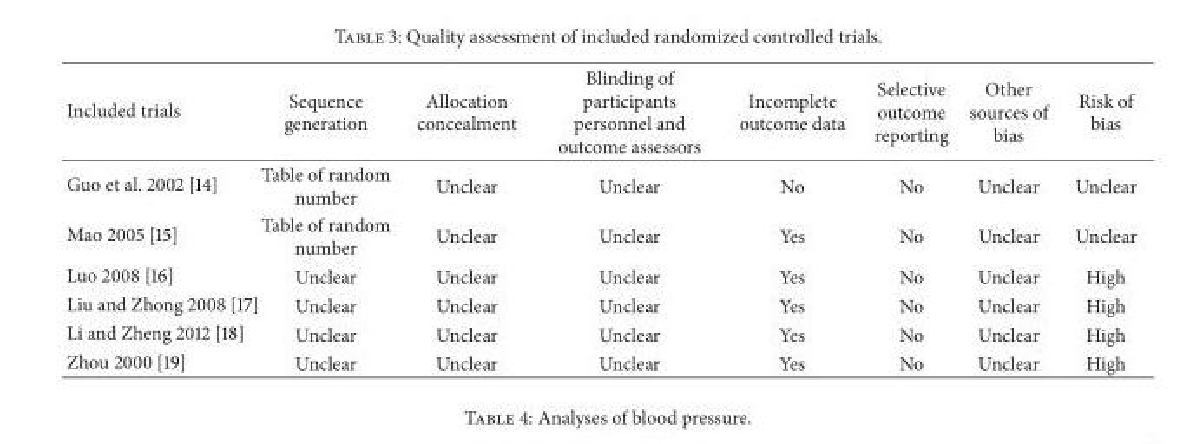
<table><thead><tr><td>Included trials</td><td>Sequence generation</td><td>Allocation concealment</td><td>Blinding of participants personnel and outcome assessors</td><td>Incomplete outcome data</td><td>Selective outcome reporting</td><td>Other sources of bias</td><td>Risk of bias</td></tr></thead><tbody><tr><td>Guo et al. 2002 [14]</td><td>Table of random number</td><td>Unclear</td><td>Unclear</td><td>No</td><td>No</td><td>Unclear</td><td>Unclear</td></tr><tr><td>Mao 2005 [15]</td><td>Table of random number</td><td>Unclear</td><td>Unclear</td><td>Yes</td><td>No</td><td>Unclear</td><td>Unclear</td></tr><tr><td>Luo 2008 [16]</td><td>Unclear</td><td>Unclear</td><td>Unclear</td><td>Yes</td><td>No</td><td>Unclear</td><td>High</td></tr><tr><td>Liu and Zhong 2008 [17]</td><td>Unclear</td><td>Unclear</td><td>Unclear</td><td>Yes</td><td>No</td><td>Unclear</td><td>High</td></tr><tr><td>Li and Zheng 2012 [18]</td><td>Unclear</td><td>Unclear</td><td>Unclear</td><td>Yes</td><td>No</td><td>Unclear</td><td>High</td></tr><tr><td>Zhou 2000 [19]</td><td>Unclear</td><td>Unclear</td><td>Unclear</td><td>Yes</td><td>No</td><td>Unclear</td><td>High</td></tr></tbody></table>